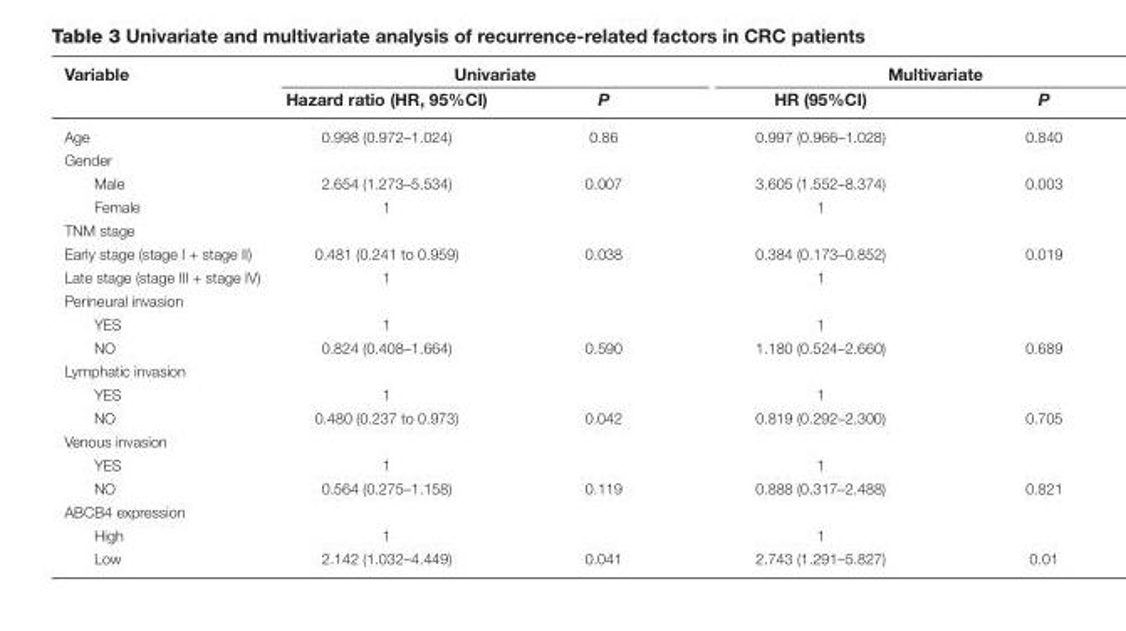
<table><thead><tr><td rowspan="2">Variable</td><td colspan="2">Univariate</td><td colspan="2">Multivariate</td></tr><tr><td>Hazard ratio (HR, 95%CI)</td><td>P</td><td>HR (95%CI)</td><td>P</td></tr></thead><tbody><tr><td>Age</td><td>0.998 (0.972–1.024)</td><td>0.86</td><td>0.997 (0.966–1.028)</td><td>0.840</td></tr><tr><td colspan="5">Gender</td></tr><tr><td>Male</td><td>2.654 (1.273–5.534)</td><td>0.007</td><td>3.605 (1.552–8.374)</td><td>0.003</td></tr><tr><td>Female</td><td>1</td><td></td><td>1</td><td></td></tr><tr><td colspan="5">TNM stage</td></tr><tr><td>Early stage (stage I + stage II)</td><td>0.481 (0.241 to 0.959)</td><td>0.038</td><td>0.384 (0.173–0.852)</td><td>0.019</td></tr><tr><td>Late stage (stage III + stage IV)</td><td>1</td><td></td><td>1</td><td></td></tr><tr><td colspan="5">Perineural invasion</td></tr><tr><td>YES</td><td>1</td><td></td><td>1</td><td></td></tr><tr><td>NO</td><td>0.824 (0.408–1.664)</td><td>0.590</td><td>1.180 (0.524–2.660)</td><td>0.689</td></tr><tr><td colspan="5">Lymphatic invasion</td></tr><tr><td>YES</td><td>1</td><td></td><td>1</td><td></td></tr><tr><td>NO</td><td>0.480 (0.237 to 0.973)</td><td>0.042</td><td>0.819 (0.292–2.300)</td><td>0.705</td></tr><tr><td colspan="5">Venous invasion</td></tr><tr><td>YES</td><td>1</td><td></td><td>1</td><td></td></tr><tr><td>NO</td><td>0.564 (0.275–1.158)</td><td>0.119</td><td>0.888 (0.317–2.488)</td><td>0.821</td></tr><tr><td colspan="5">ABCB4 expression</td></tr><tr><td>High</td><td>1</td><td></td><td>1</td><td></td></tr><tr><td>Low</td><td>2.142 (1.032–4.449)</td><td>0.041</td><td>2.743 (1.291–5.827)</td><td>0.01</td></tr></tbody></table>